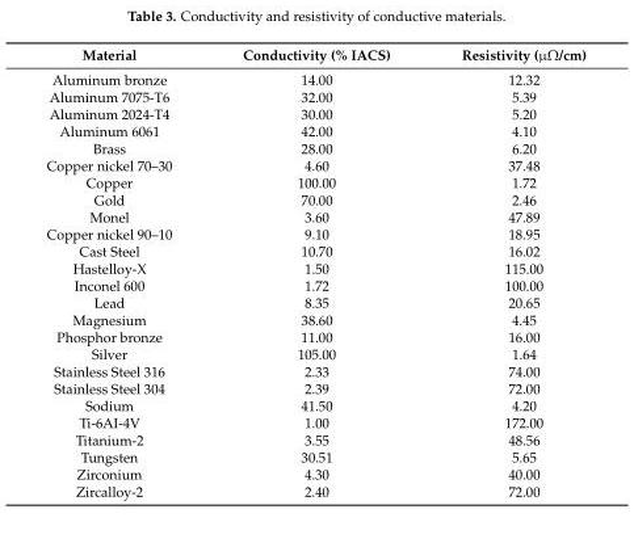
<table><thead><tr><td>Material</td><td>Conductivity (% IACS)</td><td>Resistivity (µΩ/cm)</td></tr></thead><tbody><tr><td>Aluminum bronze</td><td>14.00</td><td>12.32</td></tr><tr><td>Aluminum 7075-T6</td><td>32.00</td><td>5.39</td></tr><tr><td>Aluminum 2024-T4</td><td>30.00</td><td>5.20</td></tr><tr><td>Aluminum 6061</td><td>42.00</td><td>4.10</td></tr><tr><td>Brass</td><td>28.00</td><td>6.20</td></tr><tr><td>Copper nickel 70–30</td><td>4.60</td><td>37.48</td></tr><tr><td>Copper</td><td>100.00</td><td>1.72</td></tr><tr><td>Gold</td><td>70.00</td><td>2.46</td></tr><tr><td>Monel</td><td>3.60</td><td>47.89</td></tr><tr><td>Copper nickel 90–10</td><td>9.10</td><td>18.95</td></tr><tr><td>Cast Steel</td><td>10.70</td><td>16.02</td></tr><tr><td>Hastelloy-X</td><td>1.50</td><td>115.00</td></tr><tr><td>Inconel 600</td><td>1.72</td><td>100.00</td></tr><tr><td>Lead</td><td>8.35</td><td>20.65</td></tr><tr><td>Magnesium</td><td>38.60</td><td>4.45</td></tr><tr><td>Phosphor bronze</td><td>11.00</td><td>16.00</td></tr><tr><td>Silver</td><td>105.00</td><td>1.64</td></tr><tr><td>Stainless Steel 316</td><td>2.33</td><td>74.00</td></tr><tr><td>Stainless Steel 304</td><td>2.39</td><td>72.00</td></tr><tr><td>Sodium</td><td>41.50</td><td>4.20</td></tr><tr><td>Ti-6AI-4V</td><td>1.00</td><td>172.00</td></tr><tr><td>Titanium-2</td><td>3.55</td><td>48.56</td></tr><tr><td>Tungsten</td><td>30.51</td><td>5.65</td></tr><tr><td>Zirconium</td><td>4.30</td><td>40.00</td></tr><tr><td>Zircalloy-2</td><td>2.40</td><td>72.00</td></tr></tbody></table>